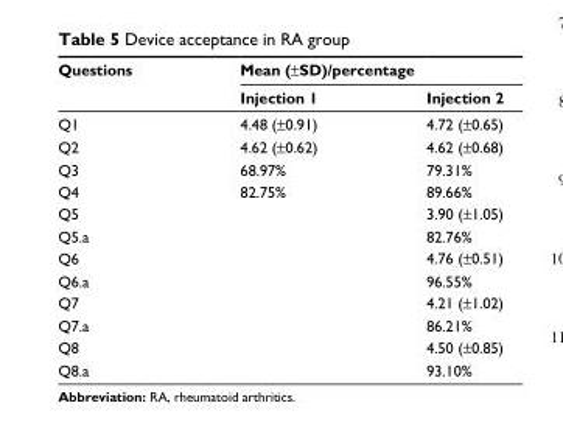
<table><thead><tr><td rowspan="2">Questions</td><td colspan="2">Mean (±SD)/percentage</td></tr><tr><td>Injection 1</td><td>Injection 2</td></tr></thead><tbody><tr><td>Q1</td><td>4.48 (±0.91)</td><td>4.72 (±0.65)</td></tr><tr><td>Q2</td><td>4.62 (±0.62)</td><td>4.62 (±0.68)</td></tr><tr><td>Q3</td><td>68.97%</td><td>79.31%</td></tr><tr><td>Q4</td><td>82.75%</td><td>89.66%</td></tr><tr><td>Q5</td><td></td><td>3.90 (±1.05)</td></tr><tr><td>Q5.a</td><td></td><td>82.76%</td></tr><tr><td>Q6</td><td></td><td>4.76 (±0.51)</td></tr><tr><td>Q6.a</td><td></td><td>96.55%</td></tr><tr><td>Q7</td><td></td><td>4.21 (±1.02)</td></tr><tr><td>Q7.a</td><td></td><td>86.21%</td></tr><tr><td>Q8</td><td></td><td>4.50 (±0.85)</td></tr><tr><td>Q8.a</td><td></td><td>93.10%</td></tr></tbody></table>